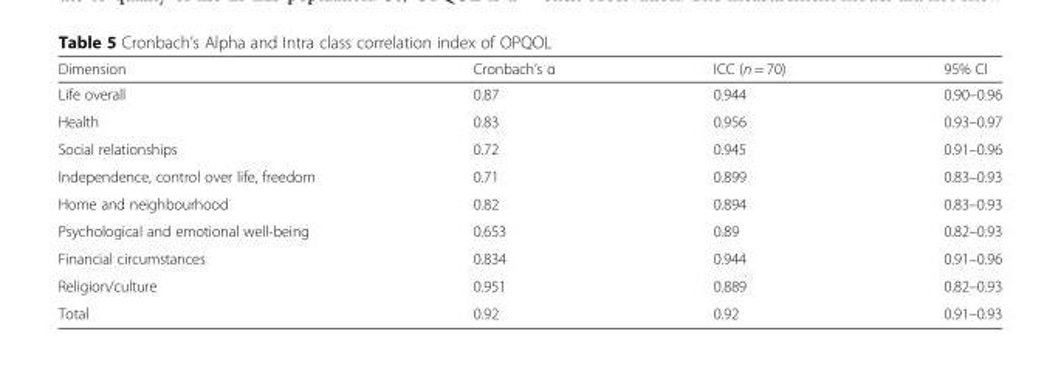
<table><thead><tr><td>Dimension</td><td>Cronbach’s α</td><td>ICC (n = 70)</td><td>95% CI</td></tr></thead><tbody><tr><td>Life overall</td><td>0.87</td><td>0.944</td><td>0.90–0.96</td></tr><tr><td>Health</td><td>0.83</td><td>0.956</td><td>0.93–0.97</td></tr><tr><td>Social relationships</td><td>0.72</td><td>0.945</td><td>0.91–0.96</td></tr><tr><td>Independence, control over life, freedom</td><td>0.71</td><td>0.899</td><td>0.83–0.93</td></tr><tr><td>Home and neighbourhood</td><td>0.82</td><td>0.894</td><td>0.83–0.93</td></tr><tr><td>Psychological and emotional well-being</td><td>0.653</td><td>0.89</td><td>0.82–0.93</td></tr><tr><td>Financial circumstances</td><td>0.834</td><td>0.944</td><td>0.91–0.96</td></tr><tr><td>Religion/culture</td><td>0.951</td><td>0.889</td><td>0.82–0.93</td></tr><tr><td>Total</td><td>0.92</td><td>0.92</td><td>0.91–0.93</td></tr></tbody></table>